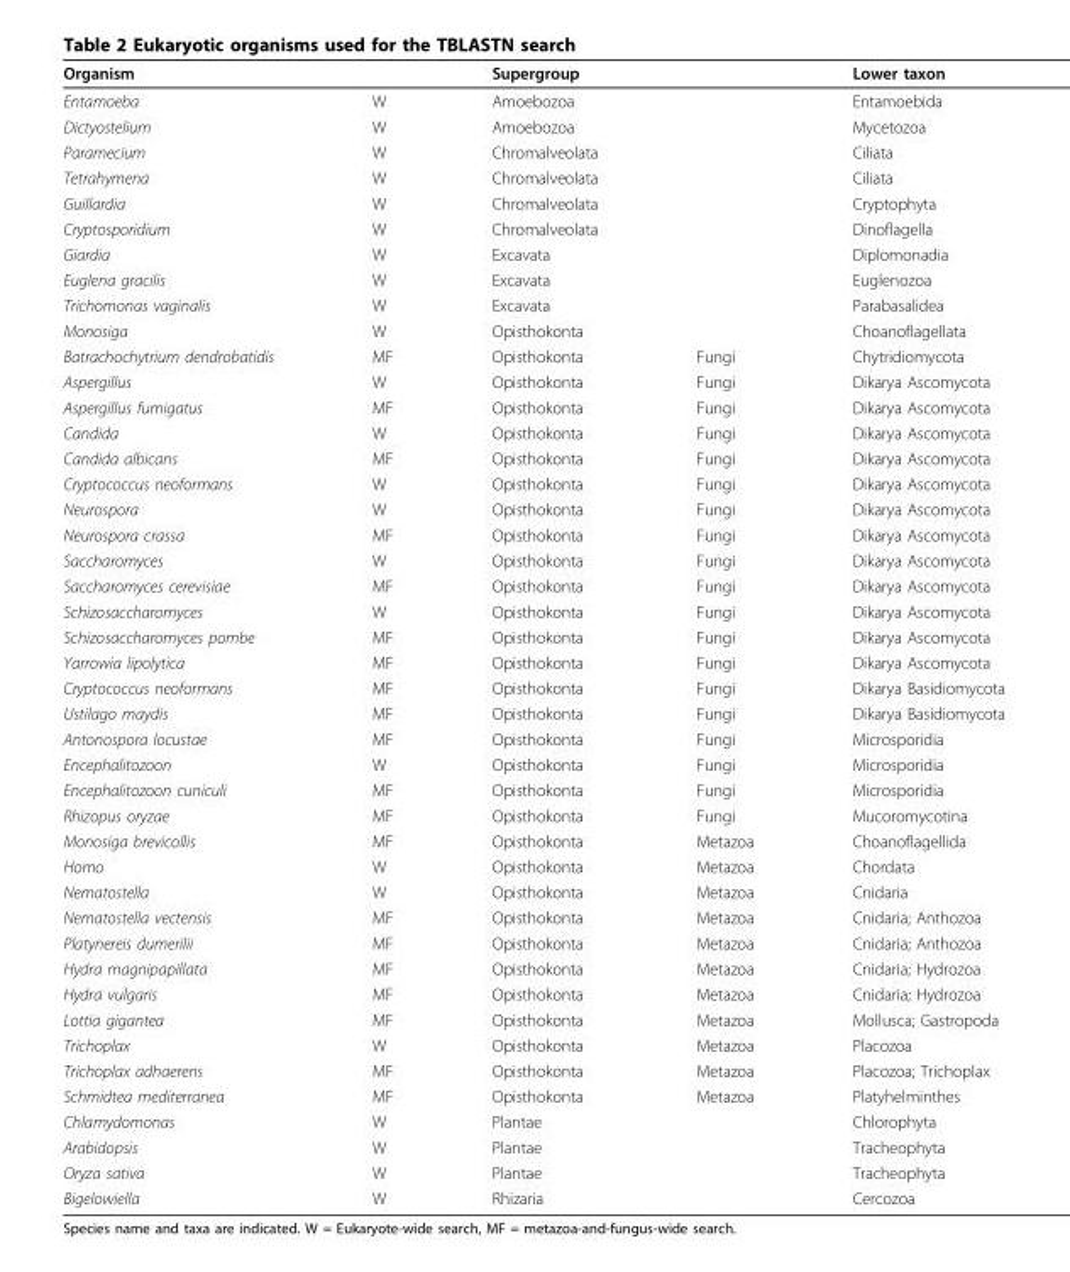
<table><thead><tr><td>Organism</td><td></td><td>Supergroup</td><td></td><td>Lower taxon</td></tr></thead><tbody><tr><td>Entamoeba</td><td>W</td><td>Amoebozoa</td><td></td><td>Entamoebida</td></tr><tr><td>Dictyostelium</td><td>W</td><td>Amoebozoa</td><td></td><td>Mycetozoa</td></tr><tr><td>Paramecium</td><td>W</td><td>Chromalveolata</td><td></td><td>Ciliata</td></tr><tr><td>Tetrahymena</td><td>W</td><td>Chromalveolata</td><td></td><td>Ciliata</td></tr><tr><td>Guillardia</td><td>W</td><td>Chromalveolata</td><td></td><td>Cryptophyta</td></tr><tr><td>Cryptosporidium</td><td>W</td><td>Chromalveolata</td><td></td><td>Dinoflagella</td></tr><tr><td>Giardia</td><td>W</td><td>Excavata</td><td></td><td>Diplomonadia</td></tr><tr><td>Euglena gracilis</td><td>W</td><td>Excavata</td><td></td><td>Euglenozoa</td></tr><tr><td>Trichomonas vaginalis</td><td>W</td><td>Excavata</td><td></td><td>Parabasalidea</td></tr><tr><td>Monosiga</td><td>W</td><td>Opisthokonta</td><td></td><td>Choanoflagellata</td></tr><tr><td>Batrachochytrium dendrobatidis</td><td>MF</td><td>Opisthokonta</td><td>Fungi</td><td>Chytridiomycota</td></tr><tr><td>Aspergillus</td><td>W</td><td>Opisthokonta</td><td>Fungi</td><td>Dikarya Ascomycota</td></tr><tr><td>Aspergillus fumigatus</td><td>MF</td><td>Opisthokonta</td><td>Fungi</td><td>Dikarya Ascomycota</td></tr><tr><td>Candida</td><td>W</td><td>Opisthokonta</td><td>Fungi</td><td>Dikarya Ascomycota</td></tr><tr><td>Candida albicans</td><td>MF</td><td>Opisthokonta</td><td>Fungi</td><td>Dikarya Ascomycota</td></tr><tr><td>Cryptococcus neoformans</td><td>W</td><td>Opisthokonta</td><td>Fungi</td><td>Dikarya Ascomycota</td></tr><tr><td>Neurospora</td><td>W</td><td>Opisthokonta</td><td>Fungi</td><td>Dikarya Ascomycota</td></tr><tr><td>Neurospora crassa</td><td>MF</td><td>Opisthokonta</td><td>Fungi</td><td>Dikarya Ascomycota</td></tr><tr><td>Saccharomyces</td><td>W</td><td>Opisthokonta</td><td>Fungi</td><td>Dikarya Ascomycota</td></tr><tr><td>Saccharomyces cerevisiae</td><td>MF</td><td>Opisthokonta</td><td>Fungi</td><td>Dikarya Ascomycota</td></tr><tr><td>Schizosaccharomyces</td><td>W</td><td>Opisthokonta</td><td>Fungi</td><td>Dikarya Ascomycota</td></tr><tr><td>Schizosaccharomyces pombe</td><td>MF</td><td>Opisthokonta</td><td>Fungi</td><td>Dikarya Ascomycota</td></tr><tr><td>Yarrowia lipolytica</td><td>MF</td><td>Opisthokonta</td><td>Fungi</td><td>Dikarya Ascomycota</td></tr><tr><td>Cryptococcus neoformans</td><td>MF</td><td>Opisthokonta</td><td>Fungi</td><td>Dikarya Basidiomycota</td></tr><tr><td>Ustilago maydis</td><td>MF</td><td>Opisthokonta</td><td>Fungi</td><td>Dikarya Basidiomycota</td></tr><tr><td>Antonospora locustae</td><td>MF</td><td>Opisthokonta</td><td>Fungi</td><td>Microsporidia</td></tr><tr><td>Encephalitozoon</td><td>W</td><td>Opisthokonta</td><td>Fungi</td><td>Microsporidia</td></tr><tr><td>Encephalitozoon cuniculi</td><td>MF</td><td>Opisthokonta</td><td>Fungi</td><td>Microsporidia</td></tr><tr><td>Rhizopus oryzae</td><td>MF</td><td>Opisthokonta</td><td>Fungi</td><td>Mucoromycotina</td></tr><tr><td>Monosiga brevicollis</td><td>MF</td><td>Opisthokonta</td><td>Metazoa</td><td>Choanoflagellida</td></tr><tr><td>Homo</td><td>W</td><td>Opisthokonta</td><td>Metazoa</td><td>Chordata</td></tr><tr><td>Nematostella</td><td>W</td><td>Opisthokonta</td><td>Metazoa</td><td>Cnidaria</td></tr><tr><td>Nematostella vectensis</td><td>MF</td><td>Opisthokonta</td><td>Metazoa</td><td>Cnidaria; Anthozoa</td></tr><tr><td>Platynereis dumerilii</td><td>MF</td><td>Opisthokonta</td><td>Metazoa</td><td>Cnidaria; Anthozoa</td></tr><tr><td>Hydra magnipapillata</td><td>MF</td><td>Opisthokonta</td><td>Metazoa</td><td>Cnidaria; Hydrozoa</td></tr><tr><td>Hydra vulgaris</td><td>MF</td><td>Opisthokonta</td><td>Metazoa</td><td>Cnidaria; Hydrozoa</td></tr><tr><td>Lottia gigantea</td><td>MF</td><td>Opisthokonta</td><td>Metazoa</td><td>Mollusca; Gastropoda</td></tr><tr><td>Trichoplax</td><td>W</td><td>Opisthokonta</td><td>Metazoa</td><td>Placozoa</td></tr><tr><td>Trichoplax adhaerens</td><td>MF</td><td>Opisthokonta</td><td>Metazoa</td><td>Placozoa; Trichoplax</td></tr><tr><td>Schmidtea mediterranea</td><td>MF</td><td>Opisthokonta</td><td>Metazoa</td><td>Platyhelminthes</td></tr><tr><td>Chlamydomonas</td><td>W</td><td>Plantae</td><td></td><td>Chlorophyta</td></tr><tr><td>Arabidopsis</td><td>W</td><td>Plantae</td><td></td><td>Tracheophyta</td></tr><tr><td>Oryza sativa</td><td>W</td><td>Plantae</td><td></td><td>Tracheophyta</td></tr><tr><td>Bigelowiella</td><td>W</td><td>Rhizaria</td><td></td><td>Cercozoa</td></tr></tbody></table>